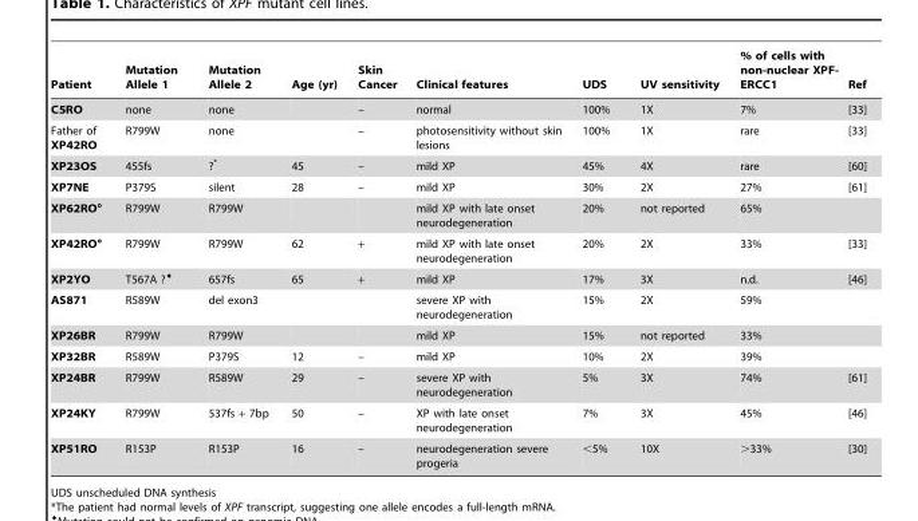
<table><thead><tr><td>Patient</td><td>Mutation Allele 1</td><td>Mutation Allele 2</td><td>Age (yr)</td><td>Skin Cancer</td><td>Clinical features</td><td>UDS</td><td>UV sensitivity</td><td>% of cells with non-nuclear XPF- ERCC1</td><td>Ref</td></tr></thead><tbody><tr><td>C5RO</td><td>none</td><td>none</td><td></td><td>–</td><td>normal</td><td>100%</td><td>1X</td><td>7%</td><td>[33]</td></tr><tr><td>Father of XP42RO</td><td>R799W</td><td>none</td><td></td><td>–</td><td>photosensitivity without skin lesions</td><td>100%</td><td>1X</td><td>rare</td><td>[33]</td></tr><tr><td>XP23OS</td><td>455fs</td><td>?*</td><td>45</td><td>–</td><td>mild XP</td><td>45%</td><td>4X</td><td>rare</td><td>[60]</td></tr><tr><td>XP7NE</td><td>P379S</td><td>silent</td><td>28</td><td>–</td><td>mild XP</td><td>30%</td><td>2X</td><td>27%</td><td>[61]</td></tr><tr><td>XP62RO°</td><td>R799W</td><td>R799W</td><td></td><td></td><td>mild XP with late onset neurodegeneration</td><td>20%</td><td>not reported</td><td>65%</td><td></td></tr><tr><td>XP42RO°</td><td>R799W</td><td>R799W</td><td>62</td><td>+</td><td>mild XP with late onset neurodegeneration</td><td>20%</td><td>2X</td><td>33%</td><td>[33]</td></tr><tr><td>XP2YO</td><td>T567A ?¤</td><td>657fs</td><td>65</td><td>+</td><td>mild XP</td><td>17%</td><td>3X</td><td>n.d.</td><td>[46]</td></tr><tr><td>AS871</td><td>R589W</td><td>del exon3</td><td></td><td></td><td>severe XP with neurodegeneration</td><td>15%</td><td>2X</td><td>59%</td><td></td></tr><tr><td>XP26BR</td><td>R799W</td><td>R799W</td><td></td><td></td><td>mild XP</td><td>15%</td><td>not reported</td><td>33%</td><td></td></tr><tr><td>XP32BR</td><td>R589W</td><td>P379S</td><td>12</td><td>–</td><td>mild XP</td><td>10%</td><td>2X</td><td>39%</td><td></td></tr><tr><td>XP24BR</td><td>R799W</td><td>R589W</td><td>29</td><td>–</td><td>severe XP with neurodegeneration</td><td>5%</td><td>3X</td><td>74%</td><td>[61]</td></tr><tr><td>XP24KY</td><td>R799W</td><td>537fs + 7bp</td><td>50</td><td>–</td><td>XP with late onset neurodegeneration</td><td>7%</td><td>3X</td><td>45%</td><td>[46]</td></tr><tr><td>XP51RO</td><td>R153P</td><td>R153P</td><td>16</td><td>–</td><td>neurodegeneration severe progeria</td><td>&lt;5%</td><td>10X</td><td>&gt;33%</td><td>[30]</td></tr></tbody></table>